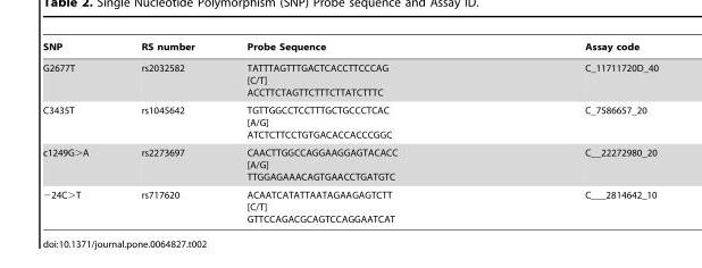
<table><thead><tr><td>SNP</td><td>RS number</td><td>Probe Sequence</td><td>Assay code</td></tr></thead><tbody><tr><td>G2677T</td><td>rs2032582</td><td>TATTTAGTTTGACTCACCTTCCCAG [C/T] ACCTTCTAGTTCTTTCTTATCTTTC</td><td>C_11711720D_40</td></tr><tr><td>C3435T</td><td>rs1045642</td><td>TGTTGGCCTCCTTTGCTGCCCTCAC [A/G] ATCTCTTCCTGTGACACCACCCGGC</td><td>C_7586657_20</td></tr><tr><td>c1249G&gt;A</td><td>rs2273697</td><td>CAACTTGGCCAGGAAGGAGTACACC [A/G] TTGGAGAAACAGTGAACCTGATGTC</td><td>C__22272980_20</td></tr><tr><td>−24C&gt;T</td><td>rs717620</td><td>ACAATCATATTAATAGAAGAGTCTT [C/T] GTTCCAGACGCAGTCCAGGAATCAT</td><td>C___2814642_10</td></tr></tbody></table>